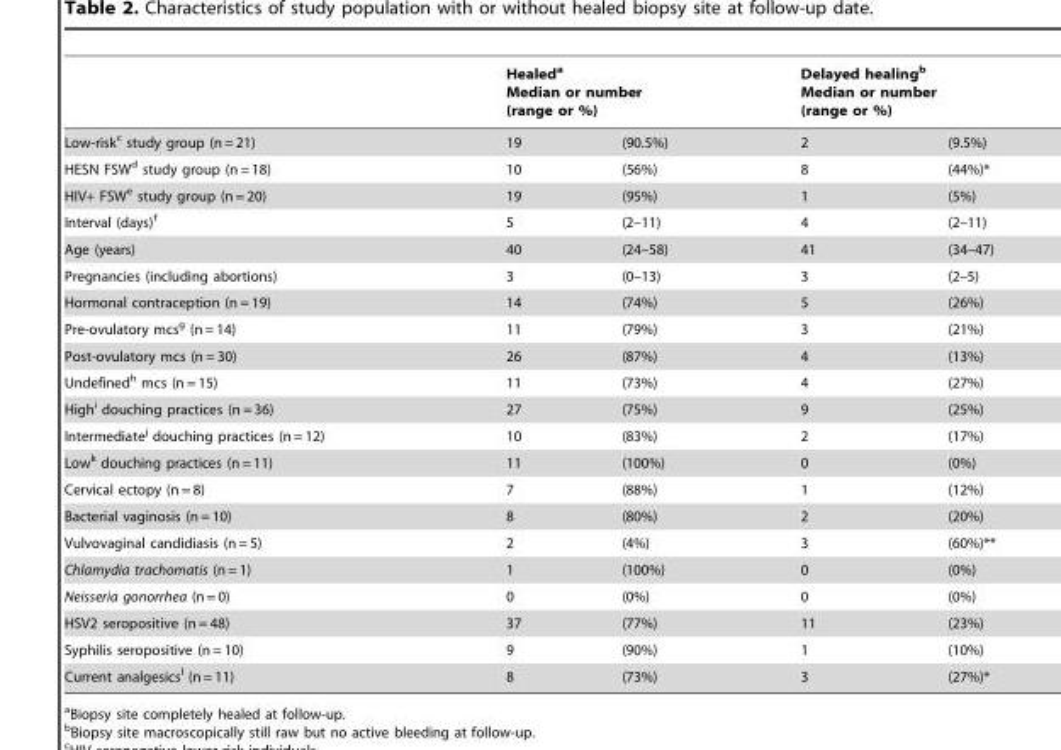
<table><thead><tr><td rowspan="2">Low-risk<sup>c</sup> study group (n = 21)</td><td colspan="2">Healed<sup>a</sup> Median or number (range or %)</td><td colspan="2">Delayed healing<sup>b</sup> Median or number (range or %)</td></tr><tr><td>19</td><td>(90.5%)</td><td>2</td><td>(9.5%)</td></tr></thead><tbody><tr><td>HESN FSW<sup>d</sup> study group (n = 18)</td><td>10</td><td>(56%)</td><td>8</td><td>(44%)*</td></tr><tr><td>HIV+ FSW<sup>e</sup> study group (n = 20)</td><td>19</td><td>(95%)</td><td>1</td><td>(5%)</td></tr><tr><td>Interval (days)<sup>f</sup></td><td>5</td><td>(2–11)</td><td>4</td><td>(2–11)</td></tr><tr><td>Age (years)</td><td>40</td><td>(24–58)</td><td>41</td><td>(34–47)</td></tr><tr><td>Pregnancies (including abortions)</td><td>3</td><td>(0–13)</td><td>3</td><td>(2–5)</td></tr><tr><td>Hormonal contraception (n = 19)</td><td>14</td><td>(74%)</td><td>5</td><td>(26%)</td></tr><tr><td>Pre-ovulatory mcs<sup>g</sup> (n = 14)</td><td>11</td><td>(79%)</td><td>3</td><td>(21%)</td></tr><tr><td>Post-ovulatory mcs (n = 30)</td><td>26</td><td>(87%)</td><td>4</td><td>(13%)</td></tr><tr><td>Undefined<sup>h</sup> mcs (n = 15)</td><td>11</td><td>(73%)</td><td>4</td><td>(27%)</td></tr><tr><td>High<sup>i</sup> douching practices (n = 36)</td><td>27</td><td>(75%)</td><td>9</td><td>(25%)</td></tr><tr><td>Intermediate<sup>j</sup> douching practices (n = 12)</td><td>10</td><td>(83%)</td><td>2</td><td>(17%)</td></tr><tr><td>Low<sup>k</sup> douching practices (n = 11)</td><td>11</td><td>(100%)</td><td>0</td><td>(0%)</td></tr><tr><td>Cervical ectopy (n = 8)</td><td>7</td><td>(88%)</td><td>1</td><td>(12%)</td></tr><tr><td>Bacterial vaginosis (n = 10)</td><td>8</td><td>(80%)</td><td>2</td><td>(20%)</td></tr><tr><td>Vulvovaginal candidiasis (n = 5)</td><td>2</td><td>(4%)</td><td>3</td><td>(60%)**</td></tr><tr><td>Chlamydia trachomatis (n = 1)</td><td>1</td><td>(100%)</td><td>0</td><td>(0%)</td></tr><tr><td>Neisseria gonorrhea (n = 0)</td><td>0</td><td>(0%)</td><td>0</td><td>(0%)</td></tr><tr><td>HSV2 seropositive (n = 48)</td><td>37</td><td>(77%)</td><td>11</td><td>(23%)</td></tr><tr><td>Syphilis seropositive (n = 10)</td><td>9</td><td>(90%)</td><td>1</td><td>(10%)</td></tr><tr><td>Current analgesics<sup>l</sup> (n = 11)</td><td>8</td><td>(73%)</td><td>3</td><td>(27%)*</td></tr></tbody></table>